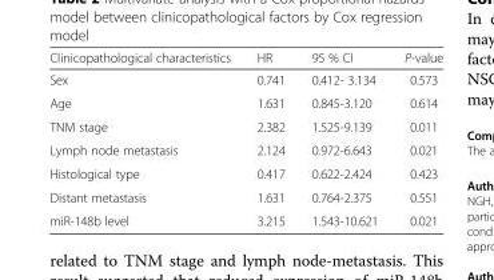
<table><thead><tr><td>Clinicopathological characteristics</td><td>HR</td><td>95 % CI</td><td>P-value</td></tr></thead><tbody><tr><td>Sex</td><td>0.741</td><td>0.412- 3.134</td><td>0.573</td></tr><tr><td>Age</td><td>1.631</td><td>0.845-3.120</td><td>0.614</td></tr><tr><td>TNM stage</td><td>2.382</td><td>1.525-9.139</td><td>0.011</td></tr><tr><td>Lymph node metastasis</td><td>2.124</td><td>0.972-6.643</td><td>0.021</td></tr><tr><td>Histological type</td><td>0.417</td><td>0.622-2.424</td><td>0.423</td></tr><tr><td>Distant metastasis</td><td>1.631</td><td>0.764-2.375</td><td>0.551</td></tr><tr><td>miR-148b level</td><td>3.215</td><td>1.543-10.621</td><td>0.021</td></tr></tbody></table>